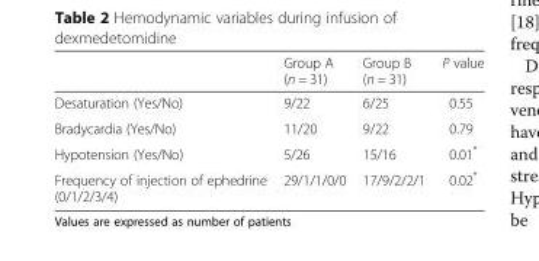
<table><thead><tr><td></td><td>Group A (n = 31)</td><td>Group B (n = 31)</td><td>P value</td></tr></thead><tbody><tr><td>Desaturation (Yes/No)</td><td>9/22</td><td>6/25</td><td>0.55</td></tr><tr><td>Bradycardia (Yes/No)</td><td>11/20</td><td>9/22</td><td>0.79</td></tr><tr><td>Hypotension (Yes/No)</td><td>5/26</td><td>15/16</td><td>0.01*</td></tr><tr><td>Frequency of injection of ephedrine (0/1/2/3/4)</td><td>29/1/1/0/0</td><td>17/9/2/2/1</td><td>0.02*</td></tr></tbody></table>